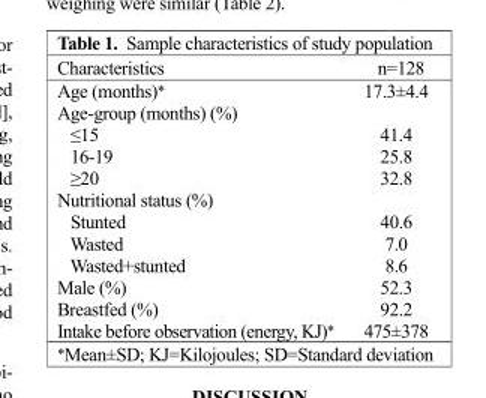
<table><thead><tr><td>Characteristics</td><td>n=128</td></tr></thead><tbody><tr><td>Age (months)*</td><td>17.3±4.4</td></tr><tr><td colspan="2">Age-group (months) (%)</td></tr><tr><td>≤15</td><td>41.4</td></tr><tr><td>16-19</td><td>25.8</td></tr><tr><td>≥20</td><td>32.8</td></tr><tr><td colspan="2">Nutritional status (%)</td></tr><tr><td>Stunted</td><td>40.6</td></tr><tr><td>Wasted</td><td>7.0</td></tr><tr><td>Wasted+stunted</td><td>8.6</td></tr><tr><td>Male (%)</td><td>52.3</td></tr><tr><td>Breastfed (%)</td><td>92.2</td></tr><tr><td>Intake before observation (energy, KJ)*</td><td>475±378</td></tr></tbody></table>